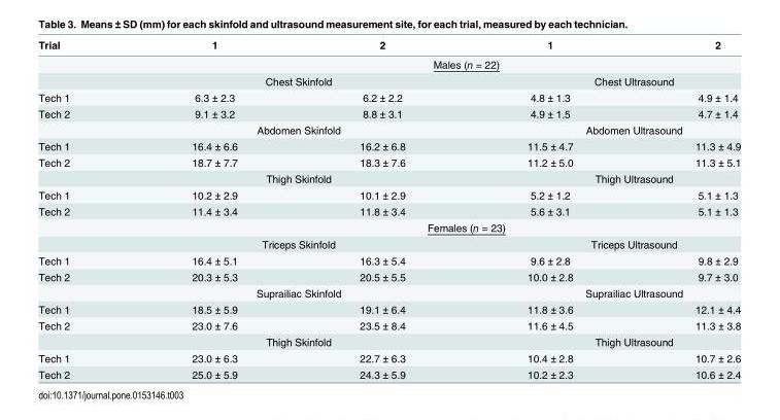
<table><thead><tr><td>Trial</td><td>1</td><td>2</td><td>1</td><td>2</td></tr></thead><tbody><tr><td></td><td colspan="4">Males (n = 22)</td></tr><tr><td></td><td colspan="2">Chest Skinfold</td><td colspan="2">Chest Ultrasound</td></tr><tr><td>Tech 1</td><td>6.3 ± 2.3</td><td>6.2 ± 2.2</td><td>4.8 ± 1.3</td><td>4.9 ± 1.4</td></tr><tr><td rowspan="2">Tech 2</td><td>9.1 ± 3.2</td><td>8.8 ± 3.1</td><td>4.9 ± 1.5</td><td>4.7 ± 1.4</td></tr><tr><td colspan="2">Abdomen Skinfold</td><td colspan="2">Abdomen Ultrasound</td></tr><tr><td>Tech 1</td><td>16.4 ± 6.6</td><td>16.2 ± 6.8</td><td>11.5 ± 4.7</td><td>11.3 ± 4.9</td></tr><tr><td rowspan="2">Tech 2</td><td>18.7 ± 7.7</td><td>18.3 ± 7.6</td><td>11.2 ± 5.0</td><td>11.3 ± 5.1</td></tr><tr><td colspan="2">Thigh Skinfold</td><td colspan="2">Thigh Ultrasound</td></tr><tr><td>Tech 1</td><td>10.2 ± 2.9</td><td>10.1 ± 2.9</td><td>5.2 ± 1.2</td><td>5.1 ± 1.3</td></tr><tr><td rowspan="3">Tech 2</td><td>11.4 ± 3.4</td><td>11.8 ± 3.4</td><td>5.6 ± 3.1</td><td>5.1 ± 1.3</td></tr><tr><td colspan="4">Females (n = 23)</td></tr><tr><td colspan="2">Triceps Skinfold</td><td colspan="2">Triceps Ultrasound</td></tr><tr><td>Tech 1</td><td>16.4 ± 5.1</td><td>16.3 ± 5.4</td><td>9.6 ± 2.8</td><td>9.8 ± 2.9</td></tr><tr><td rowspan="2">Tech 2</td><td>20.3 ± 5.3</td><td>20.5 ± 5.5</td><td>10.0 ± 2.8</td><td>9.7 ± 3.0</td></tr><tr><td colspan="2">Suprailiac Skinfold</td><td colspan="2">Suprailiac Ultrasound</td></tr><tr><td>Tech 1</td><td>18.5 ± 5.9</td><td>19.1 ± 6.4</td><td>11.8 ± 3.6</td><td>12.1 ± 4.4</td></tr><tr><td rowspan="2">Tech 2</td><td>23.0 ± 7.6</td><td>23.5 ± 8.4</td><td>11.6 ± 4.5</td><td>11.3 ± 3.8</td></tr><tr><td colspan="2">Thigh Skinfold</td><td colspan="2">Thigh Ultrasound</td></tr><tr><td>Tech 1</td><td>23.0 ± 6.3</td><td>22.7 ± 6.3</td><td>10.4 ± 2.8</td><td>10.7 ± 2.6</td></tr><tr><td>Tech 2</td><td>25.0 ± 5.9</td><td>24.3 ± 5.9</td><td>10.2 ± 2.3</td><td>10.6 ± 2.4</td></tr></tbody></table>